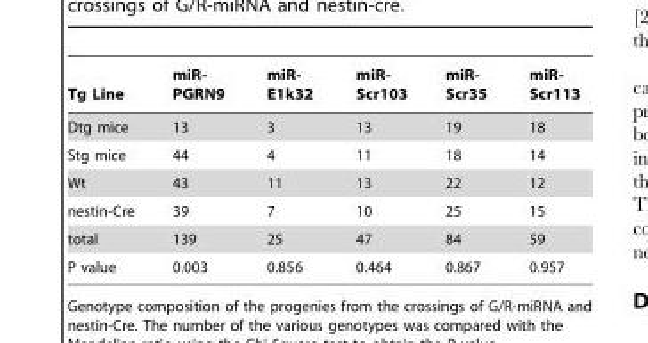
<table><thead><tr><td>Tg Line</td><td>miR- PGRN9</td><td>miR- E1k32</td><td>miR- Scr103</td><td>miR- Scr35</td><td>miR- Scr113</td></tr></thead><tbody><tr><td>Dtg mice</td><td>13</td><td>3</td><td>13</td><td>19</td><td>18</td></tr><tr><td>Stg mice</td><td>44</td><td>4</td><td>11</td><td>18</td><td>14</td></tr><tr><td>Wt</td><td>43</td><td>11</td><td>13</td><td>22</td><td>12</td></tr><tr><td>nestin-Cre</td><td>39</td><td>7</td><td>10</td><td>25</td><td>15</td></tr><tr><td>total</td><td>139</td><td>25</td><td>47</td><td>84</td><td>59</td></tr><tr><td>P value</td><td>0.003</td><td>0.856</td><td>0.464</td><td>0.867</td><td>0.957</td></tr></tbody></table>